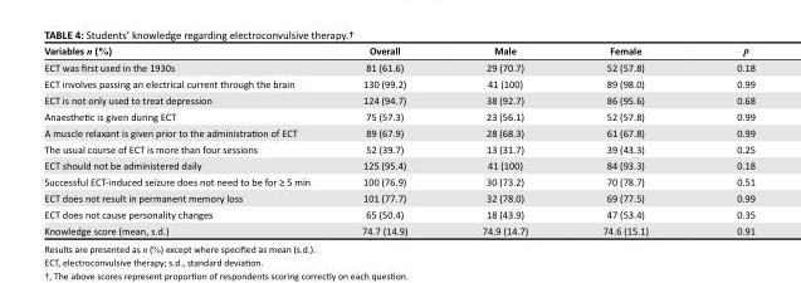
<table><thead><tr><td>Variables n (%)</td><td>Overall</td><td>Male</td><td>Female</td><td>p</td></tr></thead><tbody><tr><td>ECT was first used in the 1930s</td><td>81 (61.6)</td><td>29 (70.7)</td><td>52 (57.8)</td><td>0.18</td></tr><tr><td>ECT involves passing an electrical current through the brain</td><td>130 (99.2)</td><td>41 (100)</td><td>89 (98.0)</td><td>0.99</td></tr><tr><td>ECT is not only used to treat depression</td><td>124 (94.7)</td><td>38 (92.7)</td><td>86 (95.6)</td><td>0.68</td></tr><tr><td>Anaesthetic is given during ECT</td><td>75 (57.3)</td><td>23 (56.1)</td><td>52 (57.8)</td><td>0.99</td></tr><tr><td>A muscle relaxant is given prior to the administration of ECT</td><td>89 (67.9)</td><td>28 (68.3)</td><td>61 (67.8)</td><td>0.99</td></tr><tr><td>The usual course of ECT is more than four sessions</td><td>52 (39.7)</td><td>13 (31.7)</td><td>39 (43.3)</td><td>0.25</td></tr><tr><td>ECT should not be administered daily</td><td>125 (95.4)</td><td>41 (100)</td><td>84 (93.3)</td><td>0.18</td></tr><tr><td>Successful ECT-induced seizure does not need to be for ≥ 5 min</td><td>100 (76.9)</td><td>30 (73.2)</td><td>70 (78.7)</td><td>0.51</td></tr><tr><td>ECT does not result in permanent memory loss</td><td>101 (77.7)</td><td>32 (78.0)</td><td>69 (77.5)</td><td>0.99</td></tr><tr><td>ECT does not cause personality changes</td><td>65 (50.4)</td><td>18 (43.9)</td><td>47 (53.4)</td><td>0.35</td></tr><tr><td>Knowledge score (mean, s.d.)</td><td>74.7 (14.9)</td><td>74.9 (14.7)</td><td>74.6 (15.1)</td><td>0.91</td></tr></tbody></table>